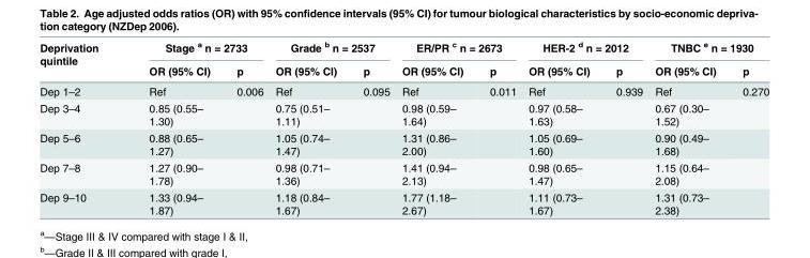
<table><thead><tr><td rowspan="2">Deprivation quintile</td><td colspan="2">Stage <sup>a</sup> n = 2733</td><td colspan="2">Grade <sup>b</sup> n = 2537</td><td colspan="2">ER/PR <sup>c</sup> n = 2673</td><td colspan="2">HER-2 <sup>d</sup> n = 2012</td><td colspan="2">TNBC <sup>e</sup> n = 1930</td></tr><tr><td>OR (95% CI)</td><td>p</td><td>OR (95% CI)</td><td>p</td><td>OR (95% CI)</td><td>p</td><td>OR (95% CI)</td><td>p</td><td>OR (95% CI)</td><td>p</td></tr></thead><tbody><tr><td>Dep 1–2</td><td>Ref</td><td>0.006</td><td>Ref</td><td>0.095</td><td>Ref</td><td>0.011</td><td>Ref</td><td>0.939</td><td>Ref</td><td>0.270</td></tr><tr><td>Dep 3–4</td><td>0.85 (0.55– 1.30)</td><td></td><td>0.75 (0.51– 1.11)</td><td></td><td>0.98 (0.59– 1.64)</td><td></td><td>0.97 (0.58– 1.63)</td><td></td><td>0.67 (0.30– 1.52)</td><td></td></tr><tr><td>Dep 5–6</td><td>0.88 (0.65– 1.27)</td><td></td><td>1.05 (0.74– 1.47)</td><td></td><td>1.31 (0.86– 2.00)</td><td></td><td>1.05 (0.69– 1.60)</td><td></td><td>0.90 (0.49– 1.68)</td><td></td></tr><tr><td>Dep 7–8</td><td>1.27 (0.90– 1.78)</td><td></td><td>0.98 (0.71– 1.36)</td><td></td><td>1.41 (0.94– 2.13)</td><td></td><td>0.98 (0.65– 1.47)</td><td></td><td>1.15 (0.64– 2.08)</td><td></td></tr><tr><td>Dep 9–10</td><td>1.33 (0.94– 1.87)</td><td></td><td>1.18 (0.84– 1.67)</td><td></td><td>1.77 (1.18– 2.67)</td><td></td><td>1.11 (0.73– 1.67)</td><td></td><td>1.31 (0.73– 2.38)</td><td></td></tr></tbody></table>